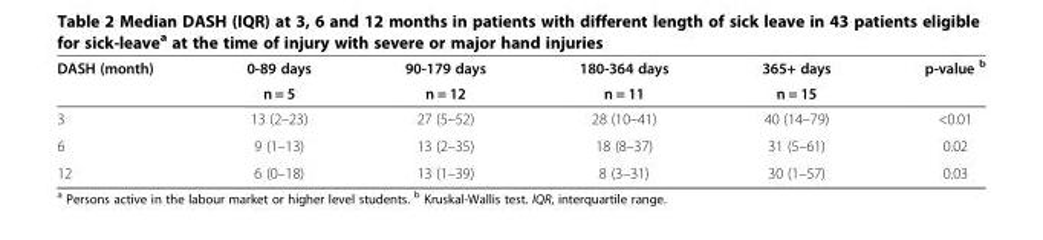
<table><thead><tr><td rowspan="2">DASH (month)</td><td rowspan="2">0-89 days n = 5</td><td rowspan="2">90-179 days n = 12</td><td rowspan="2">180-364 days n = 11</td><td rowspan="2">365+ days n = 15</td><td rowspan="2">p-value <sup>b</sup></td></tr><tr></tr></thead><tbody><tr><td>3</td><td>13 (2–23)</td><td>27 (5–52)</td><td>28 (10–41)</td><td>40 (14–79)</td><td>&lt;0.01</td></tr><tr><td>6</td><td>9 (1–13)</td><td>13 (2–35)</td><td>18 (8–37)</td><td>31 (5–61)</td><td>0.02</td></tr><tr><td>12</td><td>6 (0–18)</td><td>13 (1–39)</td><td>8 (3–31)</td><td>30 (1–57)</td><td>0.03</td></tr></tbody></table>